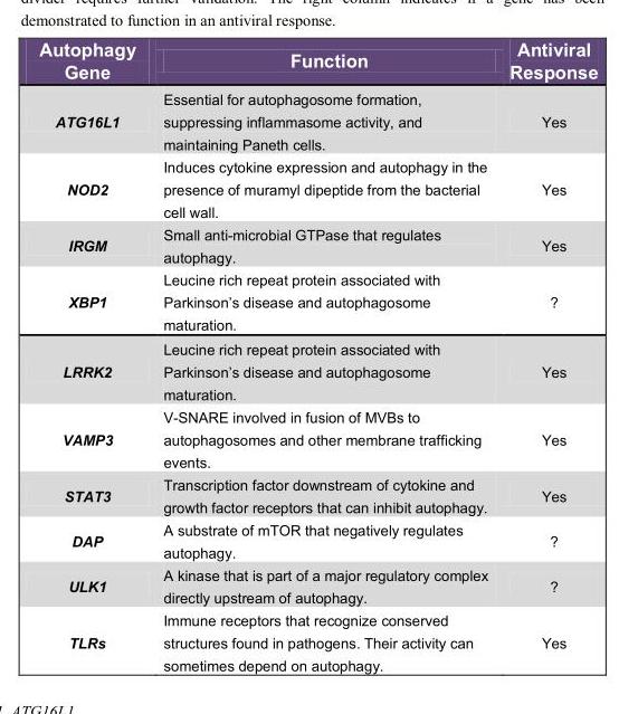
<table><thead><tr><td>Autophagy Gene</td><td>Function</td><td>Antiviral Response</td></tr></thead><tbody><tr><td>ATG16L1</td><td>Essential for autophagosome formation, suppressing inflammasome activity, and maintaining Paneth cells.</td><td>Yes</td></tr><tr><td>NOD2</td><td>Induces cytokine expression and autophagy in the presence of muramyl dipeptide from the bacterial cell wall.</td><td>Yes</td></tr><tr><td>IRGM</td><td>Small anti-microbial GTPase that regulates autophagy.</td><td>Yes</td></tr><tr><td>XBP1</td><td>Leucine rich repeat protein associated with Parkinson’s disease and autophagosome maturation.</td><td>?</td></tr><tr><td>LRRK2</td><td>Leucine rich repeat protein associated with Parkinson’s disease and autophagosome maturation.</td><td>Yes</td></tr><tr><td>VAMP3</td><td>V-SNARE involved in fusion of MVBs to autophagosomes and other membrane trafficking events.</td><td>Yes</td></tr><tr><td>STAT3</td><td>Transcription factor downstream of cytokine and growth factor receptors that can inhibit autophagy.</td><td>Yes</td></tr><tr><td>DAP</td><td>A substrate of mTOR that negatively regulates autophagy.</td><td>?</td></tr><tr><td>ULK1</td><td>A kinase that is part of a major regulatory complex directly upstream of autophagy.</td><td>?</td></tr><tr><td>TLRs</td><td>Immune receptors that recognize conserved structures found in pathogens. Their activity can sometimes depend on autophagy.</td><td>Yes</td></tr></tbody></table>